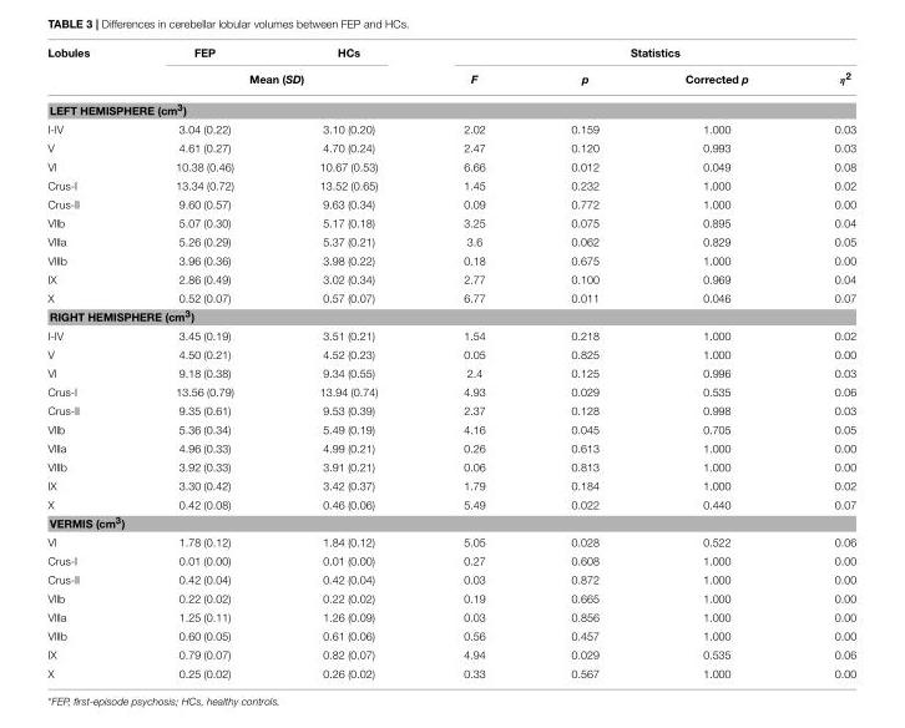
<table><thead><tr><td rowspan="2">Lobules</td><td>FEP</td><td>HCs</td><td colspan="4">Statistics</td></tr><tr><td colspan="2">Mean (SD)</td><td>F</td><td>p</td><td>Corrected p</td><td>η<sup>2</sup></td></tr></thead><tbody><tr><td colspan="7">LEFT HEMISPHERE (cm<sup>3</sup>)</td></tr><tr><td>I-IV</td><td>3.04 (0.22)</td><td>3.10 (0.20)</td><td>2.02</td><td>0.159</td><td>1.000</td><td>0.03</td></tr><tr><td>V</td><td>4.61 (0.27)</td><td>4.70 (0.24)</td><td>2.47</td><td>0.120</td><td>0.993</td><td>0.03</td></tr><tr><td>VI</td><td>10.38 (0.46)</td><td>10.67 (0.53)</td><td>6.66</td><td>0.012</td><td>0.049</td><td>0.08</td></tr><tr><td>Crus-I</td><td>13.34 (0.72)</td><td>13.52 (0.65)</td><td>1.45</td><td>0.232</td><td>1.000</td><td>0.02</td></tr><tr><td>Crus-II</td><td>9.60 (0.57)</td><td>9.63 (0.34)</td><td>0.09</td><td>0.772</td><td>1.000</td><td>0.00</td></tr><tr><td>Vllb</td><td>5.07 (0.30)</td><td>5.17 (0.18)</td><td>3.25</td><td>0.075</td><td>0.895</td><td>0.04</td></tr><tr><td>Vllla</td><td>5.26 (0.29)</td><td>5.37 (0.21)</td><td>3.6</td><td>0.062</td><td>0.829</td><td>0.05</td></tr><tr><td>Vlllb</td><td>3.96 (0.36)</td><td>3.98 (0.22)</td><td>0.18</td><td>0.675</td><td>1.000</td><td>0.00</td></tr><tr><td>IX</td><td>2.86 (0.49)</td><td>3.02 (0.34)</td><td>2.77</td><td>0.100</td><td>0.969</td><td>0.04</td></tr><tr><td>X</td><td>0.52 (0.07)</td><td>0.57 (0.07)</td><td>6.77</td><td>0.011</td><td>0.046</td><td>0.07</td></tr><tr><td colspan="7">RIGHT HEMISPHERE (cm<sup>3</sup>)</td></tr><tr><td>I-IV</td><td>3.45 (0.19)</td><td>3.51 (0.21)</td><td>1.54</td><td>0.218</td><td>1.000</td><td>0.02</td></tr><tr><td>V</td><td>4.50 (0.21)</td><td>4.52 (0.23)</td><td>0.05</td><td>0.825</td><td>1.000</td><td>0.00</td></tr><tr><td>VI</td><td>9.18 (0.38)</td><td>9.34 (0.55)</td><td>2.4</td><td>0.125</td><td>0.996</td><td>0.03</td></tr><tr><td>Crus-I</td><td>13.56 (0.79)</td><td>13.94 (0.74)</td><td>4.93</td><td>0.029</td><td>0.535</td><td>0.06</td></tr><tr><td>Crus-II</td><td>9.35 (0.61)</td><td>9.53 (0.39)</td><td>2.37</td><td>0.128</td><td>0.998</td><td>0.03</td></tr><tr><td>Vllb</td><td>5.36 (0.34)</td><td>5.49 (0.19)</td><td>4.16</td><td>0.045</td><td>0.705</td><td>0.05</td></tr><tr><td>Vllla</td><td>4.96 (0.33)</td><td>4.99 (0.21)</td><td>0.26</td><td>0.613</td><td>1.000</td><td>0.00</td></tr><tr><td>Vlllb</td><td>3.92 (0.33)</td><td>3.91 (0.21)</td><td>0.06</td><td>0.813</td><td>1.000</td><td>0.00</td></tr><tr><td>IX</td><td>3.30 (0.42)</td><td>3.42 (0.37)</td><td>1.79</td><td>0.184</td><td>1.000</td><td>0.02</td></tr><tr><td>X</td><td>0.42 (0.08)</td><td>0.46 (0.06)</td><td>5.49</td><td>0.022</td><td>0.440</td><td>0.07</td></tr><tr><td colspan="7">VERMIS (cm<sup>3</sup>)</td></tr><tr><td>VI</td><td>1.78 (0.12)</td><td>1.84 (0.12)</td><td>5.05</td><td>0.028</td><td>0.522</td><td>0.06</td></tr><tr><td>Crus-I</td><td>0.01 (0.00)</td><td>0.01 (0.00)</td><td>0.27</td><td>0.608</td><td>1.000</td><td>0.00</td></tr><tr><td>Crus-II</td><td>0.42 (0.04)</td><td>0.42 (0.04)</td><td>0.03</td><td>0.872</td><td>1.000</td><td>0.00</td></tr><tr><td>Vllb</td><td>0.22 (0.02)</td><td>0.22 (0.02)</td><td>0.19</td><td>0.665</td><td>1.000</td><td>0.00</td></tr><tr><td>Vllla</td><td>1.25 (0.11)</td><td>1.26 (0.09)</td><td>0.03</td><td>0.856</td><td>1.000</td><td>0.00</td></tr><tr><td>Vlllb</td><td>0.60 (0.05)</td><td>0.61 (0.06)</td><td>0.56</td><td>0.457</td><td>1.000</td><td>0.00</td></tr><tr><td>IX</td><td>0.79 (0.07)</td><td>0.82 (0.07)</td><td>4.94</td><td>0.029</td><td>0.535</td><td>0.06</td></tr><tr><td>X</td><td>0.25 (0.02)</td><td>0.26 (0.02)</td><td>0.33</td><td>0.567</td><td>1.000</td><td>0.00</td></tr></tbody></table>